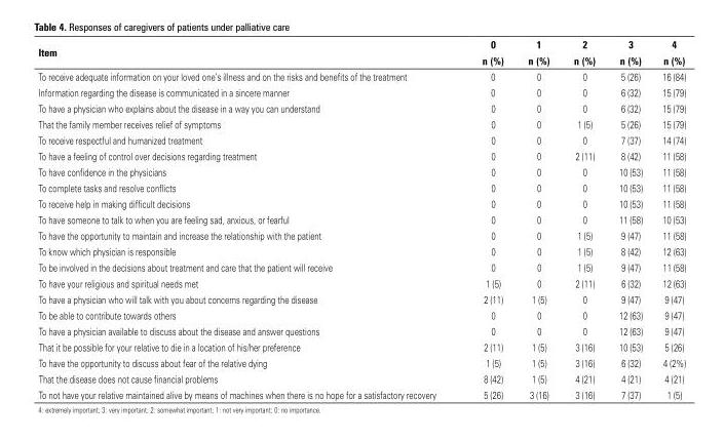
<table><thead><tr><td rowspan="2">Item</td><td rowspan="2">0 n (%)</td><td rowspan="2">1 n (%)</td><td rowspan="2">2 n (%)</td><td rowspan="2">3 n (%)</td><td rowspan="2">4 n (%)</td></tr><tr></tr></thead><tbody><tr><td>To receive adequate information on your loved one’s illness and on the risks and benefits of the treatment</td><td>0</td><td>0</td><td>0</td><td>5 (26)</td><td>16 (84)</td></tr><tr><td>Information regarding the disease is communicated in a sincere manner</td><td>0</td><td>0</td><td>0</td><td>6 (32)</td><td>15 (79)</td></tr><tr><td>To have a physician who explains about the disease in a way you can understand</td><td>0</td><td>0</td><td>0</td><td>6 (32)</td><td>15 (79)</td></tr><tr><td>That the family member receives relief of symptoms</td><td>0</td><td>0</td><td>1 (5)</td><td>5 (26)</td><td>15 (79)</td></tr><tr><td>To receive respectful and humanized treatment</td><td>0</td><td>0</td><td>0</td><td>7 (37)</td><td>14 (74)</td></tr><tr><td>To have a feeling of control over decisions regarding treatment</td><td>0</td><td>0</td><td>2 (11)</td><td>8 (42)</td><td>11 (58)</td></tr><tr><td>To have confidence in the physicians</td><td>0</td><td>0</td><td>0</td><td>10 (53)</td><td>11 (58)</td></tr><tr><td>To complete tasks and resolve conflicts</td><td>0</td><td>0</td><td>0</td><td>10 (53)</td><td>11 (58)</td></tr><tr><td>To receive help in making difficult decisions</td><td>0</td><td>0</td><td>0</td><td>10 (53)</td><td>11 (58)</td></tr><tr><td>To have someone to talk to when you are feeling sad, anxious, or fearful</td><td>0</td><td>0</td><td>0</td><td>11 (58)</td><td>10 (53)</td></tr><tr><td>To have the opportunity to maintain and increase the relationship with the patient</td><td>0</td><td>0</td><td>1 (5)</td><td>9 (47)</td><td>11 (58)</td></tr><tr><td>To know which physician is responsible</td><td>0</td><td>0</td><td>1 (5)</td><td>8 (42)</td><td>12 (63)</td></tr><tr><td>To be involved in the decisions about treatment and care that the patient will receive</td><td>0</td><td>0</td><td>1 (5)</td><td>9 (47)</td><td>11 (58)</td></tr><tr><td>To have your religious and spiritual needs met</td><td>1 (5)</td><td>0</td><td>2 (11)</td><td>6 (32)</td><td>12 (63)</td></tr><tr><td>To have a physician who will talk with you about concerns regarding the disease</td><td>2 (11)</td><td>1 (5)</td><td>0</td><td>9 (47)</td><td>9 (47)</td></tr><tr><td>To be able to contribute towards others</td><td>0</td><td>0</td><td>0</td><td>12 (63)</td><td>9 (47)</td></tr><tr><td>To have a physician available to discuss about the disease and answer questions</td><td>0</td><td>0</td><td>0</td><td>12 (63)</td><td>9 (47)</td></tr><tr><td>That it be possible for your relative to die in a location of his/her preference</td><td>2 (11)</td><td>1 (5)</td><td>3 (16)</td><td>10 (53)</td><td>5 (26)</td></tr><tr><td>To have the opportunity to discuss about fear of the relative dying</td><td>1 (5)</td><td>1 (5)</td><td>3 (16)</td><td>6 (32)</td><td>4 (2%)</td></tr><tr><td>That the disease does not cause financial problems</td><td>8 (42)</td><td>1 (5)</td><td>4 (21)</td><td>4 (21)</td><td>4 (21)</td></tr><tr><td>To not have your relative maintained alive by means of machines when there is no hope for a satisfactory recovery</td><td>5 (26)</td><td>3 (16)</td><td>3 (16)</td><td>7 (37)</td><td>1 (5)</td></tr></tbody></table>